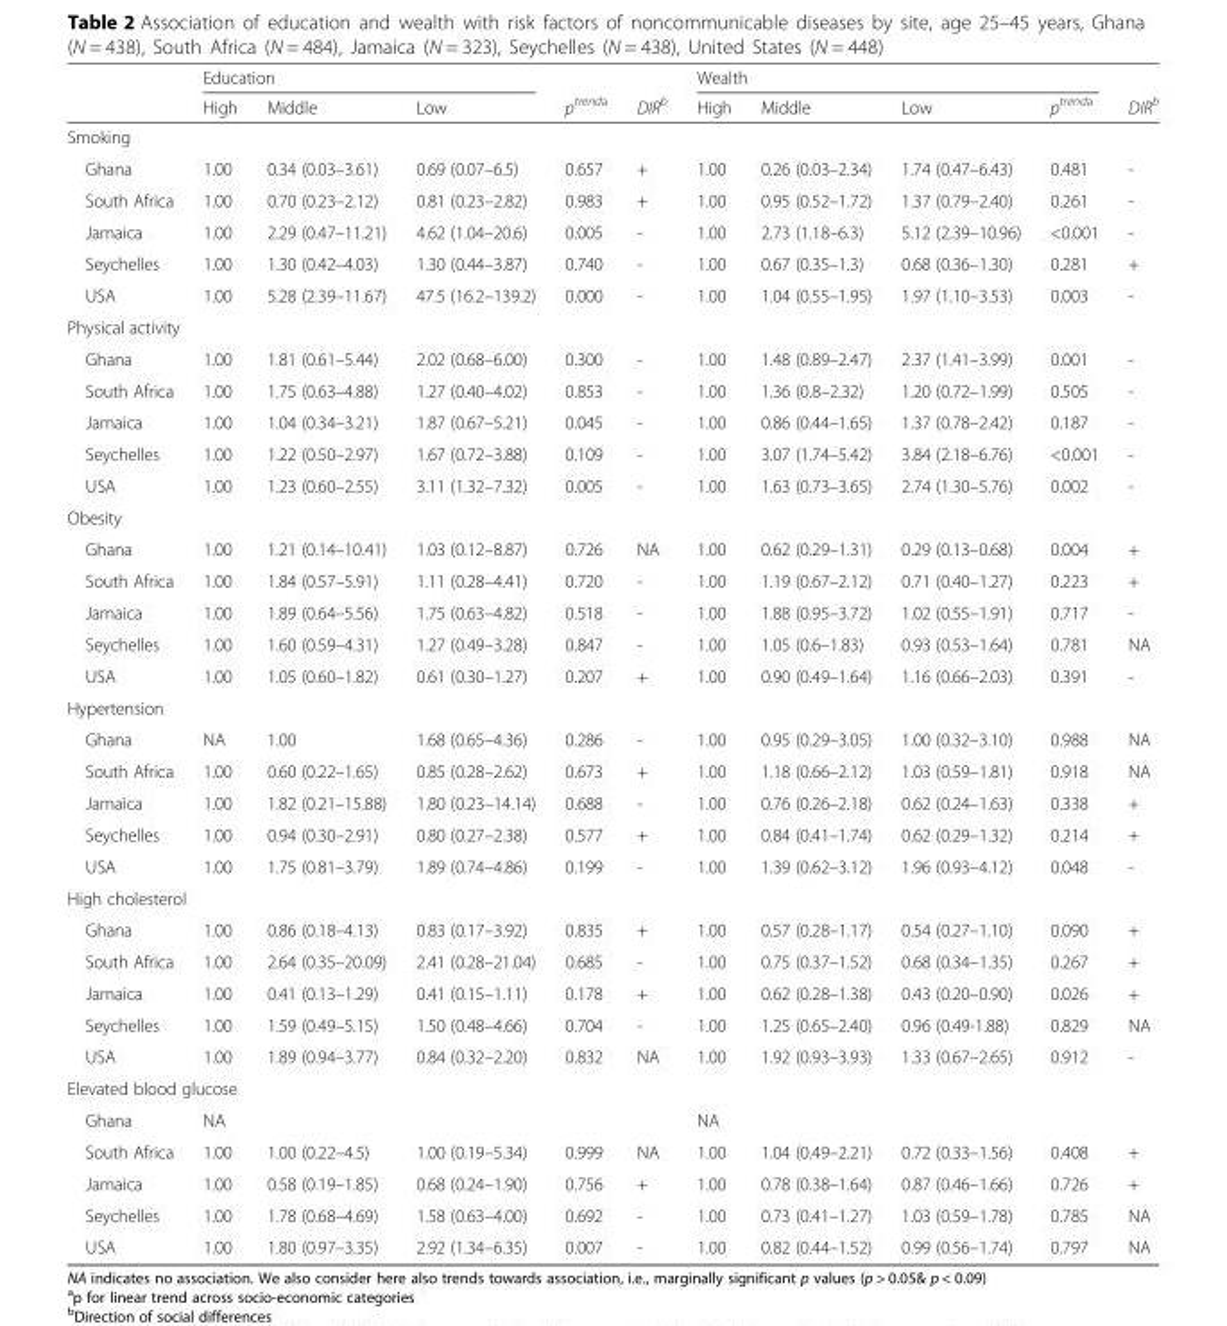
<table><thead><tr><td rowspan="2"></td><td colspan="3">Education</td><td rowspan="2">p<sup>trenda</sup></td><td rowspan="2">DIR<sup>b</sup></td><td colspan="4">Wealth</td><td rowspan="2">DIR<sup>b</sup></td></tr><tr><td>High</td><td>Middle</td><td>Low</td><td>High</td><td>Middle</td><td>Low</td><td>p<sup>trenda</sup></td></tr></thead><tbody><tr><td colspan="11">Smoking</td></tr><tr><td>Ghana</td><td>1.00</td><td>0.34 (0.03–3.61)</td><td>0.69 (0.07–6.5)</td><td>0.657</td><td>+</td><td>1.00</td><td>0.26 (0.03–2.34)</td><td>1.74 (0.47–6.43)</td><td>0.481</td><td>-</td></tr><tr><td>South Africa</td><td>1.00</td><td>0.70 (0.23–2.12)</td><td>0.81 (0.23–2.82)</td><td>0.983</td><td>+</td><td>1.00</td><td>0.95 (0.52–1.72)</td><td>1.37 (0.79–2.40)</td><td>0.261</td><td>-</td></tr><tr><td>Jamaica</td><td>1.00</td><td>2.29 (0.47–11.21)</td><td>4.62 (1.04–20.6)</td><td>0.005</td><td>-</td><td>1.00</td><td>2.73 (1.18–6.3)</td><td>5.12 (2.39–10.96)</td><td>&lt;0.001</td><td>-</td></tr><tr><td>Seychelles</td><td>1.00</td><td>1.30 (0.42–4.03)</td><td>1.30 (0.44–3.87)</td><td>0.740</td><td>-</td><td>1.00</td><td>0.67 (0.35–1.3)</td><td>0.68 (0.36–1.30)</td><td>0.281</td><td>+</td></tr><tr><td>USA</td><td>1.00</td><td>5.28 (2.39–11.67)</td><td>47.5 (16.2–139.2)</td><td>0.000</td><td>-</td><td>1.00</td><td>1.04 (0.55–1.95)</td><td>1.97 (1.10–3.53)</td><td>0.003</td><td>-</td></tr><tr><td colspan="11">Physical activity</td></tr><tr><td>Ghana</td><td>1.00</td><td>1.81 (0.61–5.44)</td><td>2.02 (0.68–6.00)</td><td>0.300</td><td>-</td><td>1.00</td><td>1.48 (0.89–2.47)</td><td>2.37 (1.41–3.99)</td><td>0.001</td><td>-</td></tr><tr><td>South Africa</td><td>1.00</td><td>1.75 (0.63–4.88)</td><td>1.27 (0.40–4.02)</td><td>0.853</td><td>-</td><td>1.00</td><td>1.36 (0.8–2.32)</td><td>1.20 (0.72–1.99)</td><td>0.505</td><td>-</td></tr><tr><td>Jamaica</td><td>1.00</td><td>1.04 (0.34–3.21)</td><td>1.87 (0.67–5.21)</td><td>0.045</td><td>-</td><td>1.00</td><td>0.86 (0.44–1.65)</td><td>1.37 (0.78–2.42)</td><td>0.187</td><td>-</td></tr><tr><td>Seychelles</td><td>1.00</td><td>1.22 (0.50–2.97)</td><td>1.67 (0.72–3.88)</td><td>0.109</td><td>-</td><td>1.00</td><td>3.07 (1.74–5.42)</td><td>3.84 (2.18–6.76)</td><td>&lt;0.001</td><td>-</td></tr><tr><td>USA</td><td>1.00</td><td>1.23 (0.60–2.55)</td><td>3.11 (1.32–7.32)</td><td>0.005</td><td>-</td><td>1.00</td><td>1.63 (0.73–3.65)</td><td>2.74 (1.30–5.76)</td><td>0.002</td><td>-</td></tr><tr><td colspan="11">Obesity</td></tr><tr><td>Ghana</td><td>1.00</td><td>1.21 (0.14–10.41)</td><td>1.03 (0.12–8.87)</td><td>0.726</td><td>NA</td><td>1.00</td><td>0.62 (0.29–1.31)</td><td>0.29 (0.13–0.68)</td><td>0.004</td><td>+</td></tr><tr><td>South Africa</td><td>1.00</td><td>1.84 (0.57–5.91)</td><td>1.11 (0.28–4.41)</td><td>0.720</td><td>-</td><td>1.00</td><td>1.19 (0.67–2.12)</td><td>0.71 (0.40–1.27)</td><td>0.223</td><td>+</td></tr><tr><td>Jamaica</td><td>1.00</td><td>1.89 (0.64–5.56)</td><td>1.75 (0.63–4.82)</td><td>0.518</td><td>-</td><td>1.00</td><td>1.88 (0.95–3.72)</td><td>1.02 (0.55–1.91)</td><td>0.717</td><td>-</td></tr><tr><td>Seychelles</td><td>1.00</td><td>1.60 (0.59–4.31)</td><td>1.27 (0.49–3.28)</td><td>0.847</td><td>-</td><td>1.00</td><td>1.05 (0.6–1.83)</td><td>0.93 (0.53–1.64)</td><td>0.781</td><td>NA</td></tr><tr><td>USA</td><td>1.00</td><td>1.05 (0.60–1.82)</td><td>0.61 (0.30–1.27)</td><td>0.207</td><td>+</td><td>1.00</td><td>0.90 (0.49–1.64)</td><td>1.16 (0.66–2.03)</td><td>0.391</td><td>-</td></tr><tr><td colspan="11">Hypertension</td></tr><tr><td>Ghana</td><td>NA</td><td>1.00</td><td>1.68 (0.65–4.36)</td><td>0.286</td><td>-</td><td>1.00</td><td>0.95 (0.29–3.05)</td><td>1.00 (0.32–3.10)</td><td>0.988</td><td>NA</td></tr><tr><td>South Africa</td><td>1.00</td><td>0.60 (0.22–1.65)</td><td>0.85 (0.28–2.62)</td><td>0.673</td><td>+</td><td>1.00</td><td>1.18 (0.66–2.12)</td><td>1.03 (0.59–1.81)</td><td>0.918</td><td>NA</td></tr><tr><td>Jamaica</td><td>1.00</td><td>1.82 (0.21–15.88)</td><td>1.80 (0.23–14.14)</td><td>0.688</td><td>-</td><td>1.00</td><td>0.76 (0.26–2.18)</td><td>0.62 (0.24–1.63)</td><td>0.338</td><td>+</td></tr><tr><td>Seychelles</td><td>1.00</td><td>0.94 (0.30–2.91)</td><td>0.80 (0.27–2.38)</td><td>0.577</td><td>+</td><td>1.00</td><td>0.84 (0.41–1.74)</td><td>0.62 (0.29–1.32)</td><td>0.214</td><td>+</td></tr><tr><td>USA</td><td>1.00</td><td>1.75 (0.81–3.79)</td><td>1.89 (0.74–4.86)</td><td>0.199</td><td>-</td><td>1.00</td><td>1.39 (0.62–3.12)</td><td>1.96 (0.93–4.12)</td><td>0.048</td><td>-</td></tr><tr><td colspan="11">High cholesterol</td></tr><tr><td>Ghana</td><td>1.00</td><td>0.86 (0.18–4.13)</td><td>0.83 (0.17–3.92)</td><td>0.835</td><td>+</td><td>1.00</td><td>0.57 (0.28–1.17)</td><td>0.54 (0.27–1.10)</td><td>0.090</td><td>+</td></tr><tr><td>South Africa</td><td>1.00</td><td>2.64 (0.35–20.09)</td><td>2.41 (0.28–21.04)</td><td>0.685</td><td>-</td><td>1.00</td><td>0.75 (0.37–1.52)</td><td>0.68 (0.34–1.35)</td><td>0.267</td><td>+</td></tr><tr><td>Jamaica</td><td>1.00</td><td>0.41 (0.13–1.29)</td><td>0.41 (0.15–1.11)</td><td>0.178</td><td>+</td><td>1.00</td><td>0.62 (0.28–1.38)</td><td>0.43 (0.20–0.90)</td><td>0.026</td><td>+</td></tr><tr><td>Seychelles</td><td>1.00</td><td>1.59 (0.49–5.15)</td><td>1.50 (0.48–4.66)</td><td>0.704</td><td>-</td><td>1.00</td><td>1.25 (0.65–2.40)</td><td>0.96 (0.49-1.88)</td><td>0.829</td><td>NA</td></tr><tr><td>USA</td><td>1.00</td><td>1.89 (0.94–3.77)</td><td>0.84 (0.32–2.20)</td><td>0.832</td><td>NA</td><td>1.00</td><td>1.92 (0.93–3.93)</td><td>1.33 (0.67–2.65)</td><td>0.912</td><td>-</td></tr><tr><td colspan="11">Elevated blood glucose</td></tr><tr><td>Ghana</td><td>NA</td><td></td><td></td><td></td><td></td><td>NA</td><td></td><td></td><td></td><td></td></tr><tr><td>South Africa</td><td>1.00</td><td>1.00 (0.22–4.5)</td><td>1.00 (0.19–5.34)</td><td>0.999</td><td>NA</td><td>1.00</td><td>1.04 (0.49–2.21)</td><td>0.72 (0.33–1.56)</td><td>0.408</td><td>+</td></tr><tr><td>Jamaica</td><td>1.00</td><td>0.58 (0.19–1.85)</td><td>0.68 (0.24–1.90)</td><td>0.756</td><td>+</td><td>1.00</td><td>0.78 (0.38–1.64)</td><td>0.87 (0.46–1.66)</td><td>0.726</td><td>+</td></tr><tr><td>Seychelles</td><td>1.00</td><td>1.78 (0.68–4.69)</td><td>1.58 (0.63–4.00)</td><td>0.692</td><td>-</td><td>1.00</td><td>0.73 (0.41–1.27)</td><td>1.03 (0.59–1.78)</td><td>0.785</td><td>NA</td></tr><tr><td>USA</td><td>1.00</td><td>1.80 (0.97–3.35)</td><td>2.92 (1.34–6.35)</td><td>0.007</td><td>-</td><td>1.00</td><td>0.82 (0.44–1.52)</td><td>0.99 (0.56–1.74)</td><td>0.797</td><td>NA</td></tr></tbody></table>